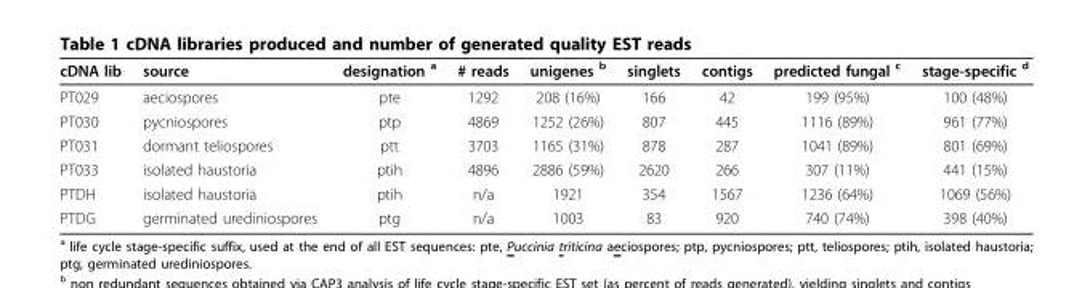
<table><thead><tr><td>cDNA lib</td><td>source</td><td>designation <sup>a</sup></td><td># reads</td><td>unigenes <sup>b</sup></td><td>singlets</td><td>contigs</td><td>predicted fungal <sup>c</sup></td><td>stage-specific <sup>d</sup></td></tr></thead><tbody><tr><td>PT029</td><td>aeciospores</td><td>pte</td><td>1292</td><td>208 (16%)</td><td>166</td><td>42</td><td>199 (95%)</td><td>100 (48%)</td></tr><tr><td>PT030</td><td>pycniospores</td><td>ptp</td><td>4869</td><td>1252 (26%)</td><td>807</td><td>445</td><td>1116 (89%)</td><td>961 (77%)</td></tr><tr><td>PT031</td><td>dormant teliospores</td><td>ptt</td><td>3703</td><td>1165 (31%)</td><td>878</td><td>287</td><td>1041 (89%)</td><td>801 (69%)</td></tr><tr><td>PT033</td><td>isolated haustoria</td><td>ptih</td><td>4896</td><td>2886 (59%)</td><td>2620</td><td>266</td><td>307 (11%)</td><td>441 (15%)</td></tr><tr><td>PTDH</td><td>isolated haustoria</td><td>ptih</td><td>n/a</td><td>1921</td><td>354</td><td>1567</td><td>1236 (64%)</td><td>1069 (56%)</td></tr><tr><td>PTDG</td><td>germinated urediniospores</td><td>ptg</td><td>n/a</td><td>1003</td><td>83</td><td>920</td><td>740 (74%)</td><td>398 (40%)</td></tr></tbody></table>